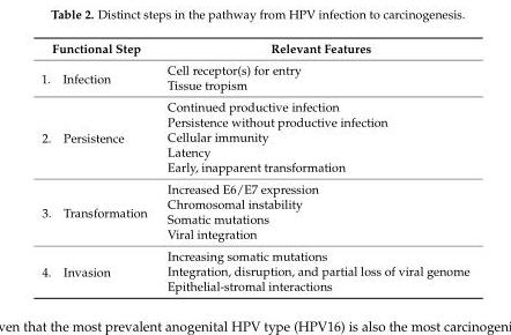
<table><thead><tr><td>Functional Step</td><td>Relevant Features</td></tr></thead><tbody><tr><td rowspan="2">1. Infection</td><td>Cell receptor(s) for entry</td></tr><tr><td>Tissue tropism</td></tr><tr><td rowspan="5">2. Persistence</td><td>Continued productive infection</td></tr><tr><td>Persistence without productive infection</td></tr><tr><td>Cellular immunity</td></tr><tr><td>Latency</td></tr><tr><td>Early, inapparent transformation</td></tr><tr><td rowspan="4">3. Transformation</td><td>Increased E6/E7 expression</td></tr><tr><td>Chromosomal instability</td></tr><tr><td>Somatic mutations</td></tr><tr><td>Viral integration</td></tr><tr><td rowspan="3">4. Invasion</td><td>Increasing somatic mutations</td></tr><tr><td>Integration, disruption, and partial loss of viral genome</td></tr><tr><td>Epithelial-stromal interactions</td></tr></tbody></table>